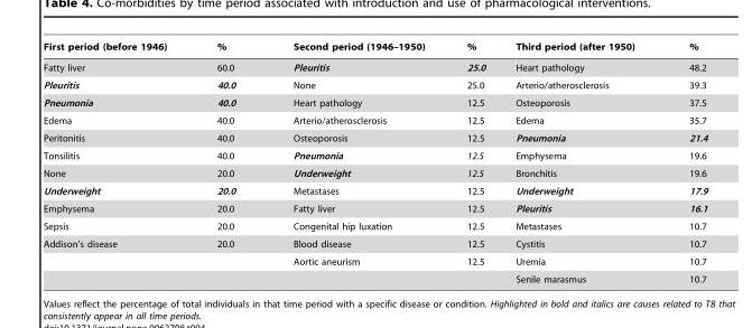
<table><thead><tr><td>First period (before 1946)</td><td>%</td><td>Second period (1946–1950)</td><td>%</td><td>Third period (after 1950)</td><td>%</td></tr></thead><tbody><tr><td>Fatty liver</td><td>60.0</td><td>Pleuritis</td><td>25.0</td><td>Heart pathology</td><td>48.2</td></tr><tr><td>Pleuritis</td><td>40.0</td><td>None</td><td>25.0</td><td>Arterio/atherosclerosis</td><td>39.3</td></tr><tr><td>Pneumonia</td><td>40.0</td><td>Heart pathology</td><td>12.5</td><td>Osteoporosis</td><td>37.5</td></tr><tr><td>Edema</td><td>40.0</td><td>Arterio/atherosclerosis</td><td>12.5</td><td>Edema</td><td>35.7</td></tr><tr><td>Peritonitis</td><td>40.0</td><td>Osteoporosis</td><td>12.5</td><td>Pneumonia</td><td>21.4</td></tr><tr><td>Tonsilitis</td><td>40.0</td><td>Pneumonia</td><td>12.5</td><td>Emphysema</td><td>19.6</td></tr><tr><td>None</td><td>20.0</td><td>Underweight</td><td>12.5</td><td>Bronchitis</td><td>19.6</td></tr><tr><td>Underweight</td><td>20.0</td><td>Metastases</td><td>12.5</td><td>Underweight</td><td>17.9</td></tr><tr><td>Emphysema</td><td>20.0</td><td>Fatty liver</td><td>12.5</td><td>Pleuritis</td><td>16.1</td></tr><tr><td>Sepsis</td><td>20.0</td><td>Congenital hip luxation</td><td>12.5</td><td>Metastases</td><td>10.7</td></tr><tr><td rowspan="3">Addison’s disease</td><td>20.0</td><td>Blood disease</td><td>12.5</td><td>Cystitis</td><td>10.7</td></tr><tr><td></td><td>Aortic aneurism</td><td>12.5</td><td>Uremia</td><td>10.7</td></tr><tr><td></td><td></td><td></td><td>Senile marasmus</td><td>10.7</td></tr></tbody></table>